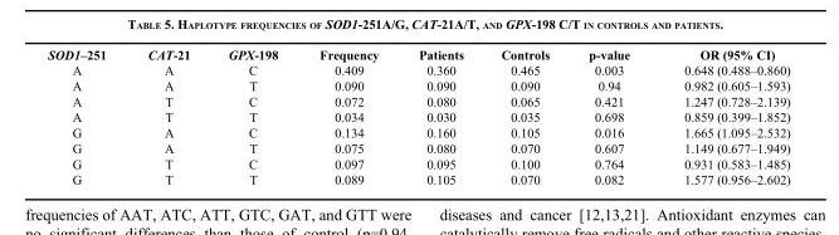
<table><thead><tr><td>SOD1–251</td><td>CAT-21</td><td>GPX-198</td><td>Frequency</td><td>Patients</td><td>Controls</td><td>p-value</td><td>OR (95% CI)</td></tr></thead><tbody><tr><td>A</td><td>A</td><td>C</td><td>0.409</td><td>0.360</td><td>0.465</td><td>0.003</td><td>0.648 (0.488–0.860)</td></tr><tr><td>A</td><td>A</td><td>T</td><td>0.090</td><td>0.090</td><td>0.090</td><td>0.94</td><td>0.982 (0.605–1.593)</td></tr><tr><td>A</td><td>T</td><td>C</td><td>0.072</td><td>0.080</td><td>0.065</td><td>0.421</td><td>1.247 (0.728–2.139)</td></tr><tr><td>A</td><td>T</td><td>T</td><td>0.034</td><td>0.030</td><td>0.035</td><td>0.698</td><td>0.859 (0.399–1.852)</td></tr><tr><td>G</td><td>A</td><td>C</td><td>0.134</td><td>0.160</td><td>0.105</td><td>0.016</td><td>1.665 (1.095–2.532)</td></tr><tr><td>G</td><td>A</td><td>T</td><td>0.075</td><td>0.080</td><td>0.070</td><td>0.607</td><td>1.149 (0.677–1.949)</td></tr><tr><td>G</td><td>T</td><td>C</td><td>0.097</td><td>0.095</td><td>0.100</td><td>0.764</td><td>0.931 (0.583–1.485)</td></tr><tr><td>G</td><td>T</td><td>T</td><td>0.089</td><td>0.105</td><td>0.070</td><td>0.082</td><td>1.577 (0.956–2.602)</td></tr></tbody></table>